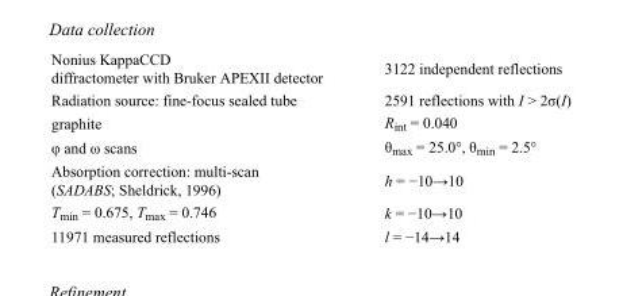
<table><tbody><tr><td>Nonius KappaCCD diffractometer with Bruker APEXII detector</td><td>3122 independent reflections</td></tr><tr><td>Radiation source: fine-focus sealed tube</td><td>2591 reflections with I &gt; 2σ(I)</td></tr><tr><td>graphite</td><td>R<sub>int</sub> = 0.040</td></tr><tr><td>φ and ω scans</td><td>θ<sub>max</sub> = 25.0°, θ<sub>min</sub> = 2.5°</td></tr><tr><td>Absorption correction: multi-scan (SADABS; Sheldrick, 1996)</td><td>h = −10→10</td></tr><tr><td>T<sub>min</sub> = 0.675, T<sub>max</sub> = 0.746</td><td>k = −10→10</td></tr><tr><td>11971 measured reflections</td><td>l = −14→14</td></tr></tbody></table>